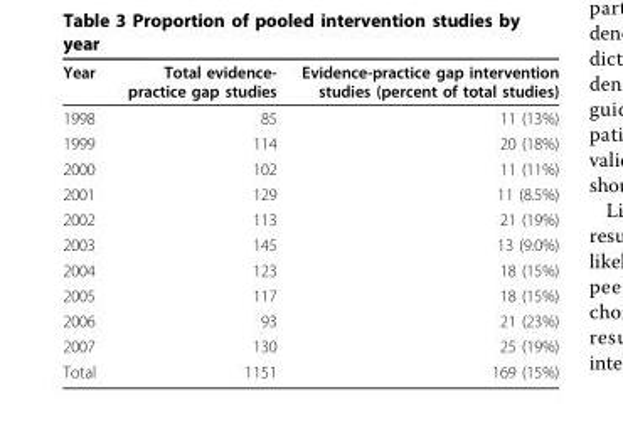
<table><thead><tr><td>Year</td><td>Total evidence- practice gap studies</td><td>Evidence-practice gap intervention studies (percent of total studies)</td></tr></thead><tbody><tr><td>1998</td><td>85</td><td>11 (13%)</td></tr><tr><td>1999</td><td>114</td><td>20 (18%)</td></tr><tr><td>2000</td><td>102</td><td>11 (11%)</td></tr><tr><td>2001</td><td>129</td><td>11 (8.5%)</td></tr><tr><td>2002</td><td>113</td><td>21 (19%)</td></tr><tr><td>2003</td><td>145</td><td>13 (9.0%)</td></tr><tr><td>2004</td><td>123</td><td>18 (15%)</td></tr><tr><td>2005</td><td>117</td><td>18 (15%)</td></tr><tr><td>2006</td><td>93</td><td>21 (23%)</td></tr><tr><td>2007</td><td>130</td><td>25 (19%)</td></tr><tr><td>Total</td><td>1151</td><td>169 (15%)</td></tr></tbody></table>